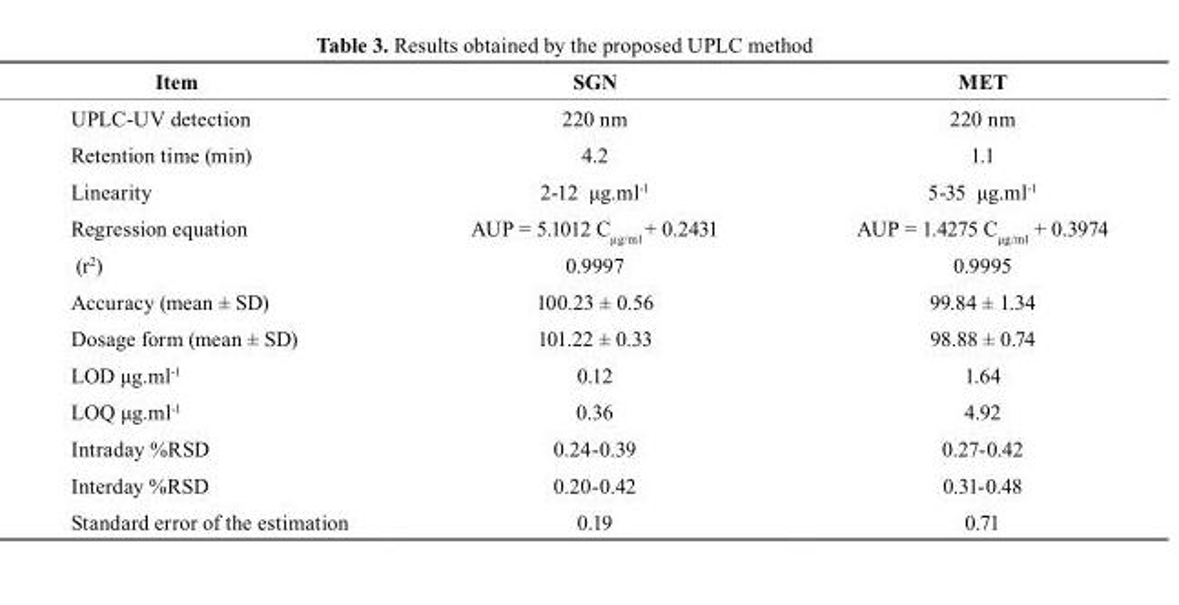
<table><thead><tr><td>Item</td><td>sGN</td><td>MEt</td></tr></thead><tbody><tr><td>UPLC-UV detection</td><td>220 nm</td><td>220 nm</td></tr><tr><td>Retention time (min)</td><td>4.2</td><td>1.1</td></tr><tr><td>Linearity</td><td>2-12 μg.ml<sup>-1</sup></td><td>5-35 μg.ml<sup>-1</sup></td></tr><tr><td>Regression equation</td><td>AUP = 5.1012 C<sub>μg/ml</sub> + 0.2431</td><td>AUP = 1.4275 C<sub>μg/ml</sub> + 0.3974</td></tr><tr><td>(r<sup>2</sup>)</td><td>0.9997</td><td>0.9995</td></tr><tr><td>Accuracy (mean ± SD)</td><td>100.23 ± 0.56</td><td>99.84 ± 1.34</td></tr><tr><td>Dosage form (mean ± SD)</td><td>101.22 ± 0.33</td><td>98.88 ± 0.74</td></tr><tr><td>LOD μg.ml<sup>-1</sup></td><td>0.12</td><td>1.64</td></tr><tr><td>LOQ μg.ml<sup>-1</sup></td><td>0.36</td><td>4.92</td></tr><tr><td>Intraday %RSD</td><td>0.24-0.39</td><td>0.27-0.42</td></tr><tr><td>Interday %RSD</td><td>0.20-0.42</td><td>0.31-0.48</td></tr><tr><td>Standard error of the estimation</td><td>0.19</td><td>0.71</td></tr></tbody></table>